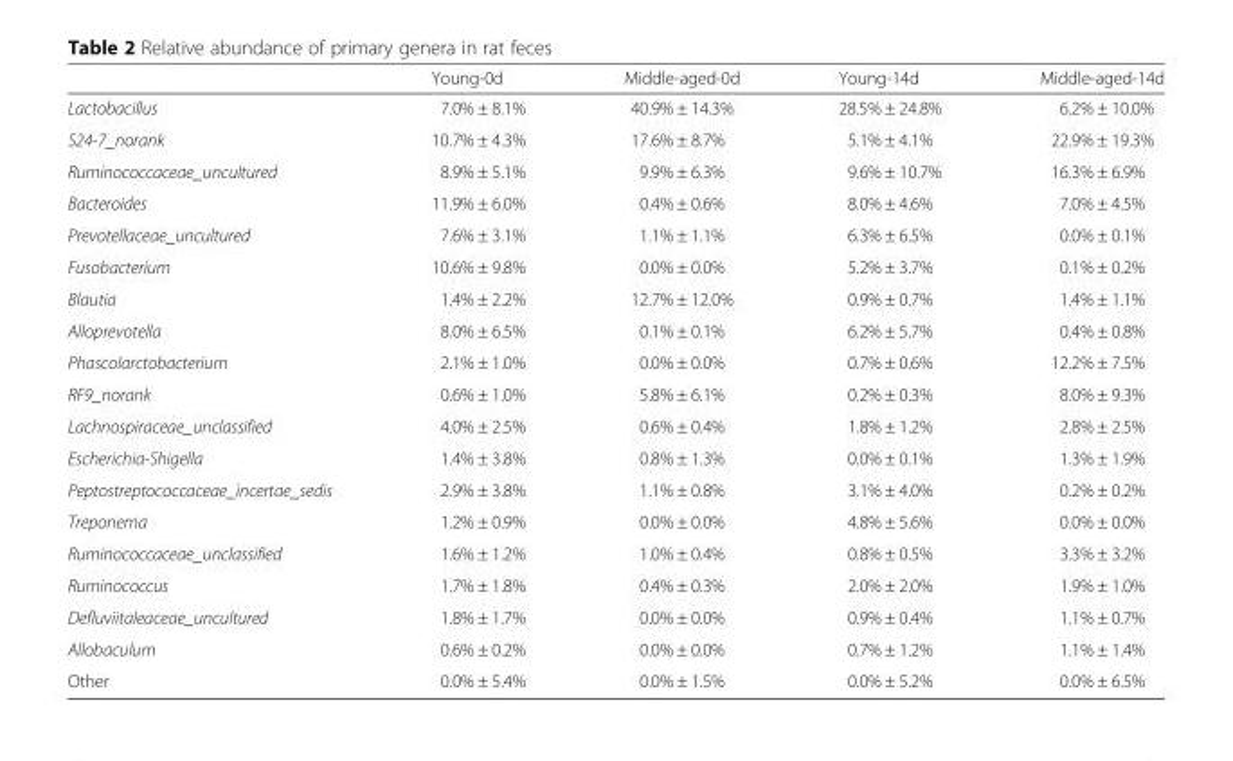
<table><thead><tr><td></td><td>Young-0d</td><td>Middle-aged-0d</td><td>Young-14d</td><td>Middle-aged-14d</td></tr></thead><tbody><tr><td>Lactobacillus</td><td>7.0% ± 8.1%</td><td>40.9% ± 14.3%</td><td>28.5% ± 24.8%</td><td>6.2% ± 10.0%</td></tr><tr><td>S24-7_norank</td><td>10.7% ± 4.3%</td><td>17.6% ± 8.7%</td><td>5.1% ± 4.1%</td><td>22.9% ± 19.3%</td></tr><tr><td>Ruminococcaceae_uncultured</td><td>8.9% ± 5.1%</td><td>9.9% ± 6.3%</td><td>9.6% ± 10.7%</td><td>16.3% ± 6.9%</td></tr><tr><td>Bacteroides</td><td>11.9% ± 6.0%</td><td>0.4% ± 0.6%</td><td>8.0% ± 4.6%</td><td>7.0% ± 4.5%</td></tr><tr><td>Prevotellaceae_uncultured</td><td>7.6% ± 3.1%</td><td>1.1% ± 1.1%</td><td>6.3% ± 6.5%</td><td>0.0% ± 0.1%</td></tr><tr><td>Fusobacterium</td><td>10.6% ± 9.8%</td><td>0.0% ± 0.0%</td><td>5.2% ± 3.7%</td><td>0.1% ± 0.2%</td></tr><tr><td>Blautia</td><td>1.4% ± 2.2%</td><td>12.7% ± 12.0%</td><td>0.9% ± 0.7%</td><td>1.4% ± 1.1%</td></tr><tr><td>Alloprevotella</td><td>8.0% ± 6.5%</td><td>0.1% ± 0.1%</td><td>6.2% ± 5.7%</td><td>0.4% ± 0.8%</td></tr><tr><td>Phascolarctobacterium</td><td>2.1% ± 1.0%</td><td>0.0% ± 0.0%</td><td>0.7% ± 0.6%</td><td>12.2% ± 7.5%</td></tr><tr><td>RF9_norank</td><td>0.6% ± 1.0%</td><td>5.8% ± 6.1%</td><td>0.2% ± 0.3%</td><td>8.0% ± 9.3%</td></tr><tr><td>Lachnospiraceae_unclassified</td><td>4.0% ± 2.5%</td><td>0.6% ± 0.4%</td><td>1.8% ± 1.2%</td><td>2.8% ± 2.5%</td></tr><tr><td>Escherichia-Shigella</td><td>1.4% ± 3.8%</td><td>0.8% ± 1.3%</td><td>0.0% ± 0.1%</td><td>1.3% ± 1.9%</td></tr><tr><td>Peptostreptococcaceae_incertae_sedis</td><td>2.9% ± 3.8%</td><td>1.1% ± 0.8%</td><td>3.1% ± 4.0%</td><td>0.2% ± 0.2%</td></tr><tr><td>Treponema</td><td>1.2% ± 0.9%</td><td>0.0% ± 0.0%</td><td>4.8% ± 5.6%</td><td>0.0% ± 0.0%</td></tr><tr><td>Ruminococcaceae_unclassified</td><td>1.6% ± 1.2%</td><td>1.0% ± 0.4%</td><td>0.8% ± 0.5%</td><td>3.3% ± 3.2%</td></tr><tr><td>Ruminococcus</td><td>1.7% ± 1.8%</td><td>0.4% ± 0.3%</td><td>2.0% ± 2.0%</td><td>1.9% ± 1.0%</td></tr><tr><td>Defluviitaleaceae_uncultured</td><td>1.8% ± 1.7%</td><td>0.0% ± 0.0%</td><td>0.9% ± 0.4%</td><td>1.1% ± 0.7%</td></tr><tr><td>Allobaculum</td><td>0.6% ± 0.2%</td><td>0.0% ± 0.0%</td><td>0.7% ± 1.2%</td><td>1.1% ± 1.4%</td></tr><tr><td>Other</td><td>0.0% ± 5.4%</td><td>0.0% ± 1.5%</td><td>0.0% ± 5.2%</td><td>0.0% ± 6.5%</td></tr></tbody></table>